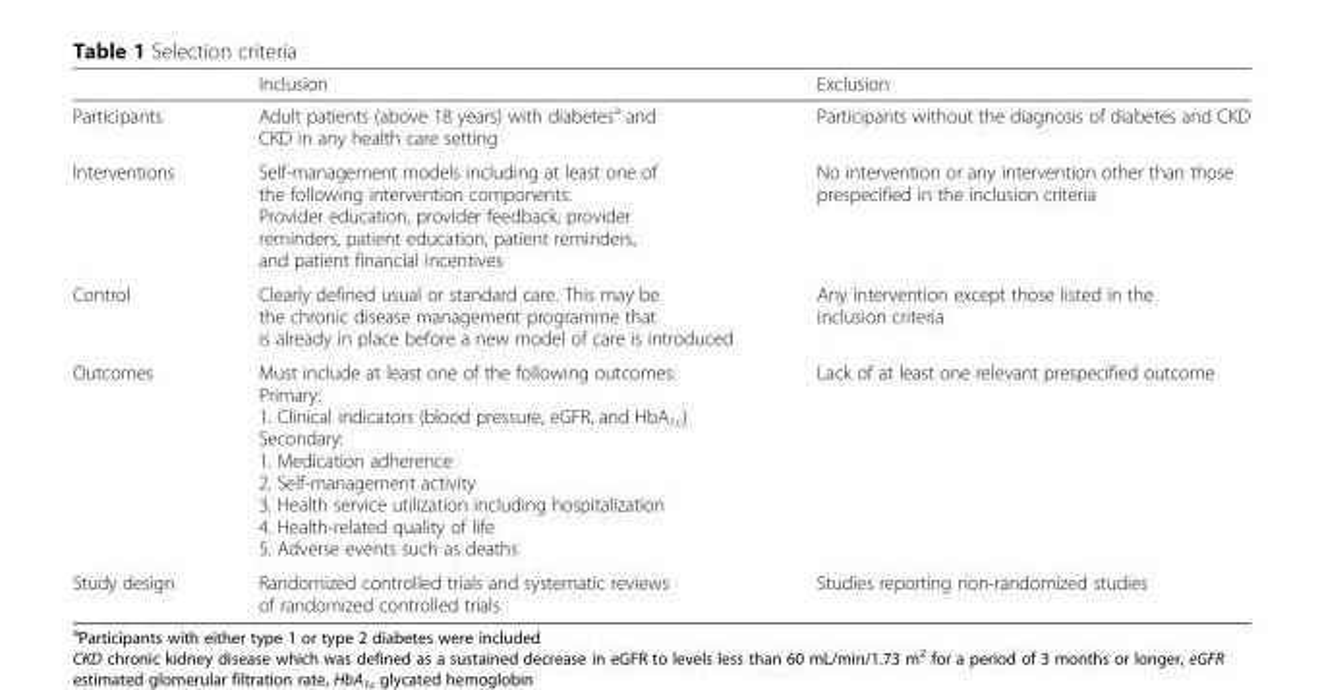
<table><thead><tr><td></td><td>Inclusion</td><td>Exclusion</td></tr></thead><tbody><tr><td>Participants</td><td>Adult patients (above 18 years) with diabetes<sup>a</sup> and CKD in any health care setting</td><td>Participants without the diagnosis of diabetes and CKD</td></tr><tr><td>Interventions</td><td>Self-management models including at least one of the following intervention components: Provider education, provider feedback, provider reminders, patient education, patient reminders, and patient financial incentives</td><td>No intervention or any intervention other than those prespecified in the inclusion criteria</td></tr><tr><td>Control</td><td>Clearly defined usual or standard care. This may be the chronic disease management programme that is already in place before a new model of care is introduced</td><td>Any intervention except those listed in the inclusion criteria</td></tr><tr><td>Outcomes</td><td>Must include at least one of the following outcomes: Primary: 1. Clinical indicators (blood pressure, eGFR, and HbA<sub>1c</sub>) Secondary: 1. Medication adherence 2. Self-management activity 3. Health service utilization including hospitalization 4. Health-related quality of life 5. Adverse events such as deaths</td><td>Lack of at least one relevant prespecified outcome</td></tr><tr><td>Study design</td><td>Randomized controlled trials and systematic reviews of randomized controlled trials</td><td>Studies reporting non-randomized studies</td></tr></tbody></table>